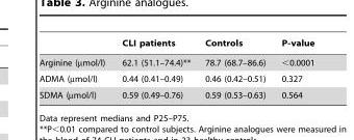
<table><thead><tr><td></td><td>CLI patients</td><td>Controls</td><td>P-value</td></tr></thead><tbody><tr><td>Arginine (µmol/l)</td><td>62.1 (51.1–74.4)**</td><td>78.7 (68.7–86.6)</td><td>&lt;0.0001</td></tr><tr><td>ADMA (µmol/l)</td><td>0.44 (0.41–0.49)</td><td>0.46 (0.42–0.51)</td><td>0.327</td></tr><tr><td>SDMA (µmol/l)</td><td>0.59 (0.49–0.76)</td><td>0.59 (0.53–0.63)</td><td>0.564</td></tr></tbody></table>